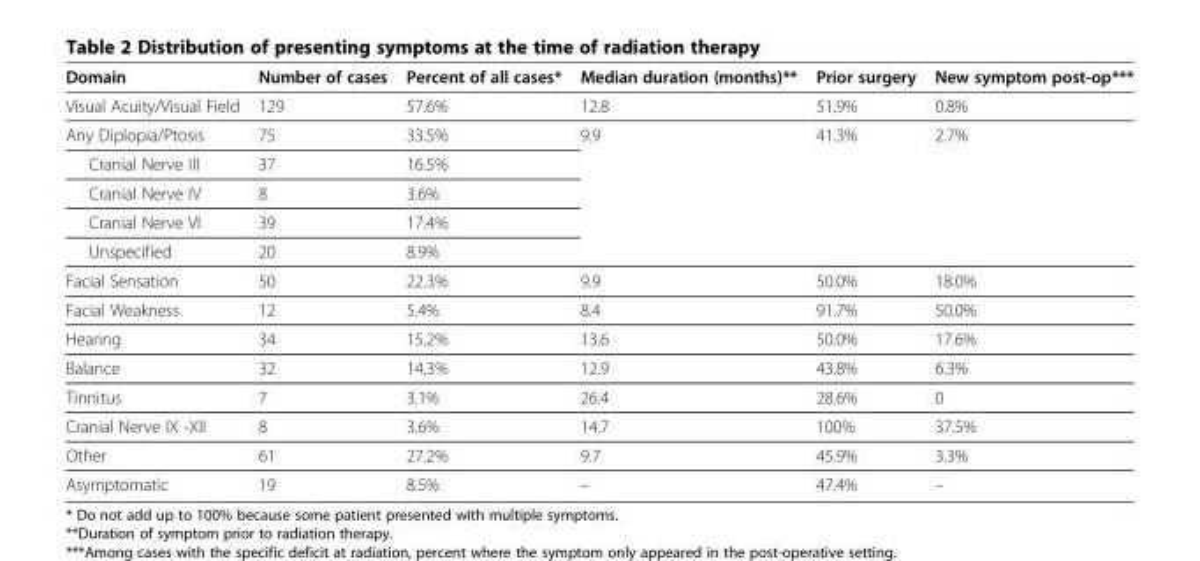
<table><thead><tr><td>Domain</td><td>Number of cases</td><td>Percent of all cases*</td><td>Median duration (months)**</td><td>Prior surgery</td><td>New symptom post-op***</td></tr></thead><tbody><tr><td>Visual Acuity/Visual Field</td><td>129</td><td>57.6%</td><td>12.8</td><td>51.9%</td><td>0.8%</td></tr><tr><td>Any Diplopia/Ptosis</td><td>75</td><td>33.5%</td><td rowspan="5">9.9</td><td rowspan="5">41.3%</td><td rowspan="5">2.7%</td></tr><tr><td>Cranial Nerve III</td><td>37</td><td>16.5%</td></tr><tr><td>Cranial Nerve IV</td><td>8</td><td>3.6%</td></tr><tr><td>Cranial Nerve VI</td><td>39</td><td>17.4%</td></tr><tr><td>Unspecified</td><td>20</td><td>8.9%</td></tr><tr><td>Facial Sensation</td><td>50</td><td>22.3%</td><td>9.9</td><td>50.0%</td><td>18.0%</td></tr><tr><td>Facial Weakness</td><td>12</td><td>5.4%</td><td>8.4</td><td>91.7%</td><td>50.0%</td></tr><tr><td>Hearing</td><td>34</td><td>15.2%</td><td>13.6</td><td>50.0%</td><td>17.6%</td></tr><tr><td>Balance</td><td>32</td><td>14.3%</td><td>12.9</td><td>43.8%</td><td>6.3%</td></tr><tr><td>Tinnitus</td><td>7</td><td>3.1%</td><td>26.4</td><td>28.6%</td><td>0</td></tr><tr><td>Cranial Nerve IX -XII</td><td>8</td><td>3.6%</td><td>14.7</td><td>100%</td><td>37.5%</td></tr><tr><td>Other</td><td>61</td><td>27.2%</td><td>9.7</td><td>45.9%</td><td>3.3%</td></tr><tr><td>Asymptomatic</td><td>19</td><td>8.5%</td><td>–</td><td>47.4%</td><td>–</td></tr></tbody></table>